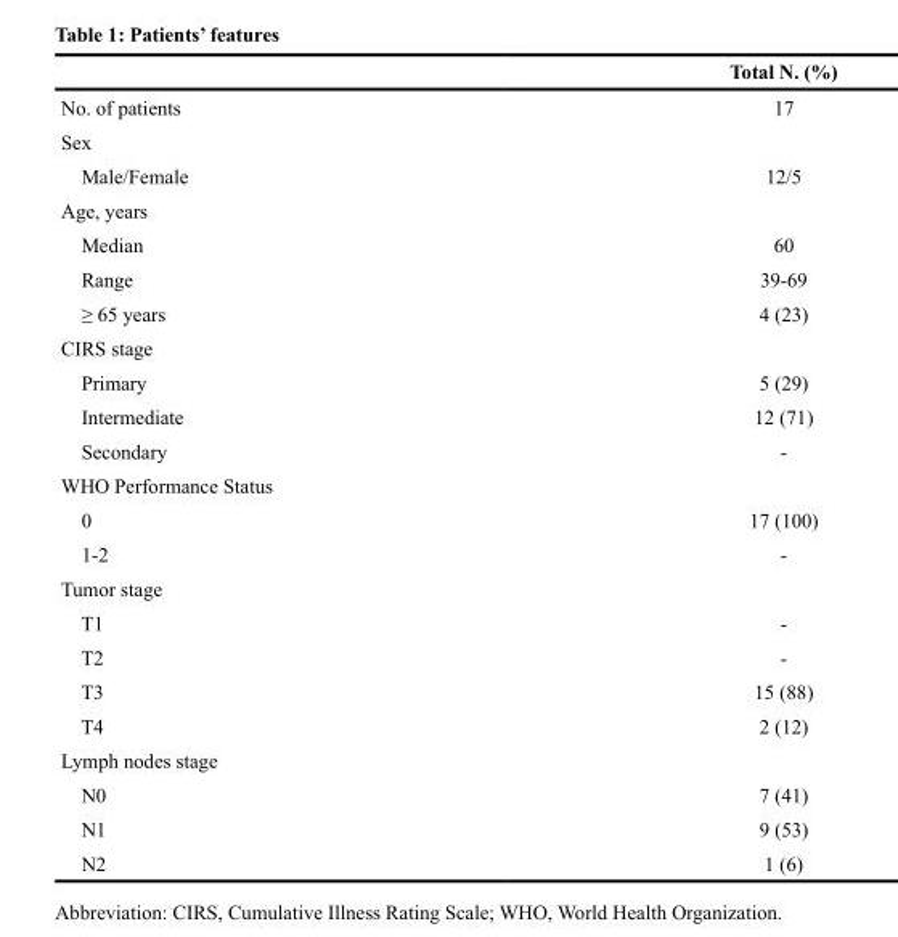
<table><thead><tr><td></td><td>Total N. (%)</td></tr></thead><tbody><tr><td>No. of patients</td><td>17</td></tr><tr><td colspan="2">Sex</td></tr><tr><td>Male/Female</td><td>12/5</td></tr><tr><td colspan="2">Age, years</td></tr><tr><td>Median</td><td>60</td></tr><tr><td>Range</td><td>39-69</td></tr><tr><td>≥ 65 years</td><td>4 (23)</td></tr><tr><td colspan="2">CIRS stage</td></tr><tr><td>Primary</td><td>5 (29)</td></tr><tr><td>Intermediate</td><td>12 (71)</td></tr><tr><td>Secondary</td><td>-</td></tr><tr><td colspan="2">WHO Performance Status</td></tr><tr><td>0</td><td>17 (100)</td></tr><tr><td>1-2</td><td>-</td></tr><tr><td colspan="2">Tumor stage</td></tr><tr><td>T1</td><td>-</td></tr><tr><td>T2</td><td>-</td></tr><tr><td>T3</td><td>15 (88)</td></tr><tr><td>T4</td><td>2 (12)</td></tr><tr><td colspan="2">Lymph nodes stage</td></tr><tr><td>N0</td><td>7 (41)</td></tr><tr><td>N1</td><td>9 (53)</td></tr><tr><td>N2</td><td>1 (6)</td></tr></tbody></table>